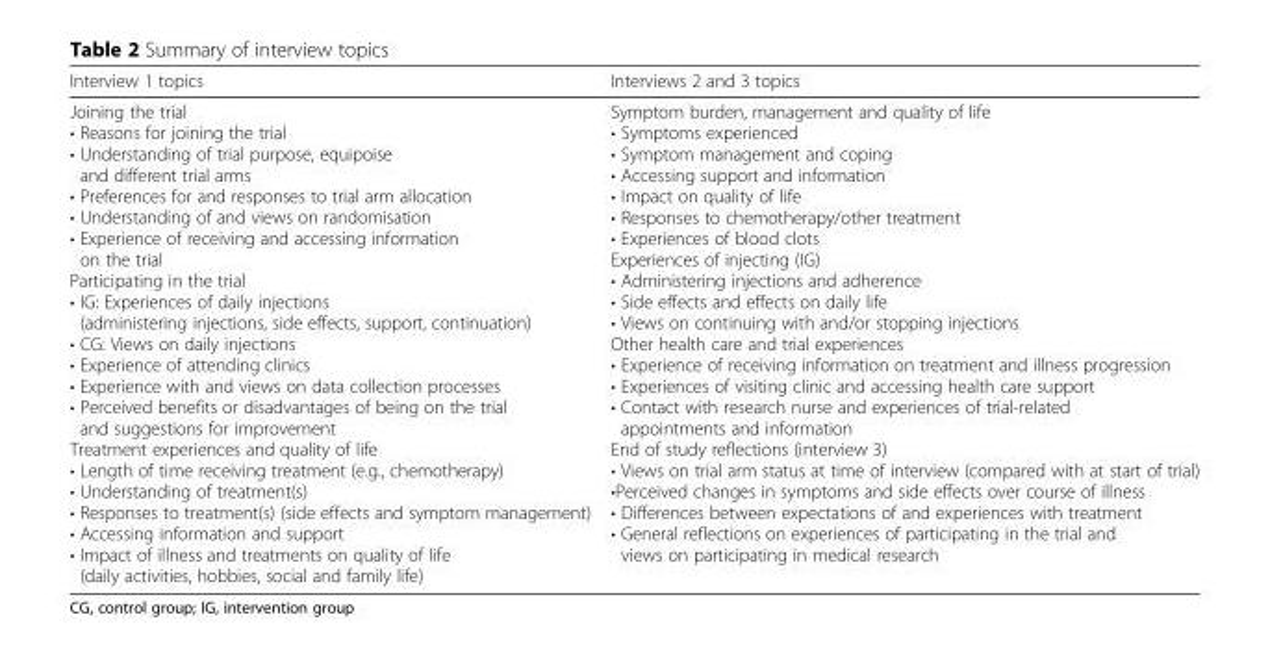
<table><thead><tr><td>Interview 1 topics</td><td>Interviews 2 and 3 topics</td></tr></thead><tbody><tr><td>Joining the trial • Reasons for joining the trial • Understanding of trial purpose, equipoise and different trial arms • Preferences for and responses to trial arm allocation • Understanding of and views on randomisation • Experience of receiving and accessing information on the trial Participating in the trial • IG: Experiences of daily injections (administering injections, side effects, support, continuation) • CG: Views on daily injections • Experience of attending clinics • Experience with and views on data collection processes • Perceived benefits or disadvantages of being on the trial and suggestions for improvement Treatment experiences and quality of life • Length of time receiving treatment (e.g., chemotherapy) • Understanding of treatment(s) • Responses to treatment(s) (side effects and symptom management) • Accessing information and support • Impact of illness and treatments on quality of life (daily activities, hobbies, social and family life)</td><td>Symptom burden, management and quality of life • Symptoms experienced • Symptom management and coping • Accessing support and information • Impact on quality of life • Responses to chemotherapy/other treatment • Experiences of blood clots Experiences of injecting (IG) • Administering injections and adherence • Side effects and effects on daily life • Views on continuing with and/or stopping injections Other health care and trial experiences • Experience of receiving information on treatment and illness progression • Experiences of visiting clinic and accessing health care support • Contact with research nurse and experiences of trial-related appointments and information End of study reflections (interview 3) • Views on trial arm status at time of interview (compared with at start of trial) •Perceived changes in symptoms and side effects over course of illness • Differences between expectations of and experiences with treatment • General reflections on experiences of participating in the trial and views on participating in medical research</td></tr></tbody></table>